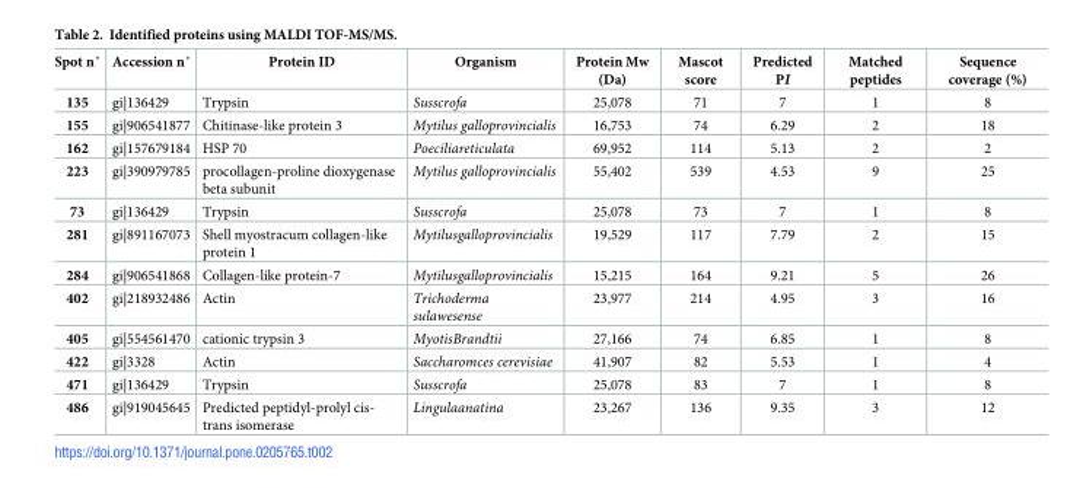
<table><thead><tr><td>Spot n˚</td><td>Accession n˚</td><td>Protein ID</td><td>Organism</td><td>Protein Mw (Da)</td><td>Mascot score</td><td>Predicted PI</td><td>Matched peptides</td><td>Sequence coverage (%)</td></tr></thead><tbody><tr><td>135</td><td>gi|136429</td><td>Trypsin</td><td>Susscrofa</td><td>25,078</td><td>71</td><td>7</td><td>1</td><td>8</td></tr><tr><td>155</td><td>gi|906541877</td><td>Chitinase-like protein 3</td><td>Mytilus galloprovincialis</td><td>16,753</td><td>74</td><td>6.29</td><td>2</td><td>18</td></tr><tr><td>162</td><td>gi|157679184</td><td>HSP 70</td><td>Poeciliareticulata</td><td>69,952</td><td>114</td><td>5.13</td><td>2</td><td>2</td></tr><tr><td>223</td><td>gi|390979785</td><td>procollagen-proline dioxygenase beta subunit</td><td>Mytilus galloprovincialis</td><td>55,402</td><td>539</td><td>4.53</td><td>9</td><td>25</td></tr><tr><td>73</td><td>gi|136429</td><td>Trypsin</td><td>Susscrofa</td><td>25,078</td><td>73</td><td>7</td><td>1</td><td>8</td></tr><tr><td>281</td><td>gi|891167073</td><td>Shell myostracum collagen-like protein 1</td><td>Mytilusgalloprovincialis</td><td>19,529</td><td>117</td><td>7.79</td><td>2</td><td>15</td></tr><tr><td>284</td><td>gi|906541868</td><td>Collagen-like protein-7</td><td>Mytilusgalloprovincialis</td><td>15,215</td><td>164</td><td>9.21</td><td>5</td><td>26</td></tr><tr><td>402</td><td>gi|218932486</td><td>Actin</td><td>Trichoderma sulawesense</td><td>23,977</td><td>214</td><td>4.95</td><td>3</td><td>16</td></tr><tr><td>405</td><td>gi|554561470</td><td>cationic trypsin 3</td><td>MyotisBrandtii</td><td>27,166</td><td>74</td><td>6.85</td><td>1</td><td>8</td></tr><tr><td>422</td><td>gi|3328</td><td>Actin</td><td>Saccharomces cerevisiae</td><td>41,907</td><td>82</td><td>5.53</td><td>1</td><td>4</td></tr><tr><td>471</td><td>gi|136429</td><td>Trypsin</td><td>Susscrofa</td><td>25,078</td><td>83</td><td>7</td><td>1</td><td>8</td></tr><tr><td>486</td><td>gi|919045645</td><td>Predicted peptidyl-prolyl cis- trans isomerase</td><td>Lingulaanatina</td><td>23,267</td><td>136</td><td>9.35</td><td>3</td><td>12</td></tr></tbody></table>